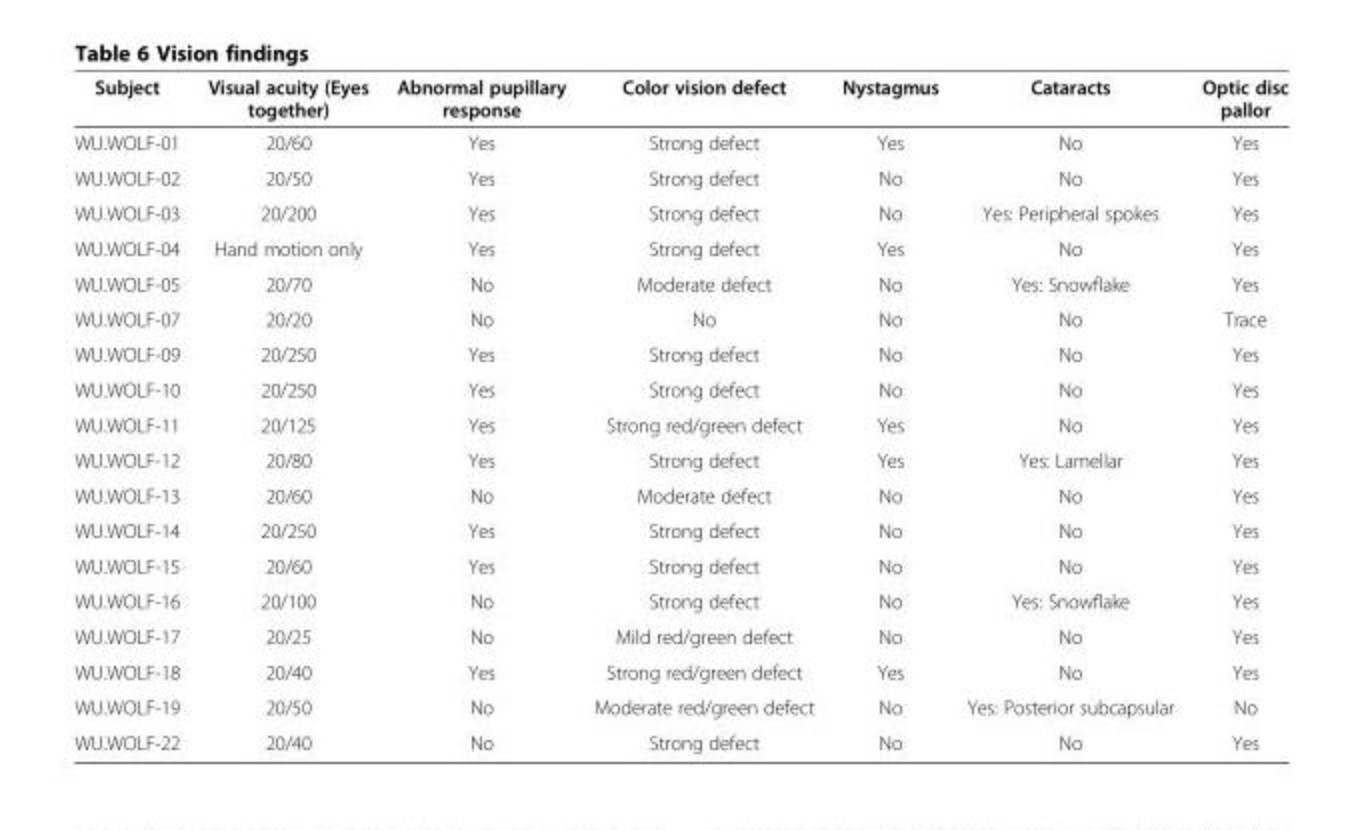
<table><thead><tr><td>Subject</td><td>Visual acuity (Eyes together)</td><td>Abnormal pupillary response</td><td>Color vision defect</td><td>Nystagmus</td><td>Cataracts</td><td>Optic disc pallor</td></tr></thead><tbody><tr><td>WU.WOLF-01</td><td>20/60</td><td>Yes</td><td>Strong defect</td><td>Yes</td><td>No</td><td>Yes</td></tr><tr><td>WU.WOLF-02</td><td>20/50</td><td>Yes</td><td>Strong defect</td><td>No</td><td>No</td><td>Yes</td></tr><tr><td>WU.WOLF-03</td><td>20/200</td><td>Yes</td><td>Strong defect</td><td>No</td><td>Yes: Peripheral spokes</td><td>Yes</td></tr><tr><td>WU.WOLF-04</td><td>Hand motion only</td><td>Yes</td><td>Strong defect</td><td>Yes</td><td>No</td><td>Yes</td></tr><tr><td>WU.WOLF-05</td><td>20/70</td><td>No</td><td>Moderate defect</td><td>No</td><td>Yes: Snowflake</td><td>Yes</td></tr><tr><td>WU.WOLF-07</td><td>20/20</td><td>No</td><td>No</td><td>No</td><td>No</td><td>Trace</td></tr><tr><td>WU.WOLF-09</td><td>20/250</td><td>Yes</td><td>Strong defect</td><td>No</td><td>No</td><td>Yes</td></tr><tr><td>WU.WOLF-10</td><td>20/250</td><td>Yes</td><td>Strong defect</td><td>No</td><td>No</td><td>Yes</td></tr><tr><td>WU.WOLF-11</td><td>20/125</td><td>Yes</td><td>Strong red/green defect</td><td>Yes</td><td>No</td><td>Yes</td></tr><tr><td>WU.WOLF-12</td><td>20/80</td><td>Yes</td><td>Strong defect</td><td>Yes</td><td>Yes: Lamellar</td><td>Yes</td></tr><tr><td>WU.WOLF-13</td><td>20/60</td><td>No</td><td>Moderate defect</td><td>No</td><td>No</td><td>Yes</td></tr><tr><td>WU.WOLF-14</td><td>20/250</td><td>Yes</td><td>Strong defect</td><td>No</td><td>No</td><td>Yes</td></tr><tr><td>WU.WOLF-15</td><td>20/60</td><td>Yes</td><td>Strong defect</td><td>No</td><td>No</td><td>Yes</td></tr><tr><td>WU.WOLF-16</td><td>20/100</td><td>No</td><td>Strong defect</td><td>No</td><td>Yes: Snowflake</td><td>Yes</td></tr><tr><td>WU.WOLF-17</td><td>20/25</td><td>No</td><td>Mild red/green defect</td><td>No</td><td>No</td><td>Yes</td></tr><tr><td>WU.WOLF-18</td><td>20/40</td><td>Yes</td><td>Strong red/green defect</td><td>Yes</td><td>No</td><td>Yes</td></tr><tr><td>WU.WOLF-19</td><td>20/50</td><td>No</td><td>Moderate red/green defect</td><td>No</td><td>Yes: Posterior subcapsular</td><td>No</td></tr><tr><td>WU.WOLF-22</td><td>20/40</td><td>No</td><td>Strong defect</td><td>No</td><td>No</td><td>Yes</td></tr></tbody></table>